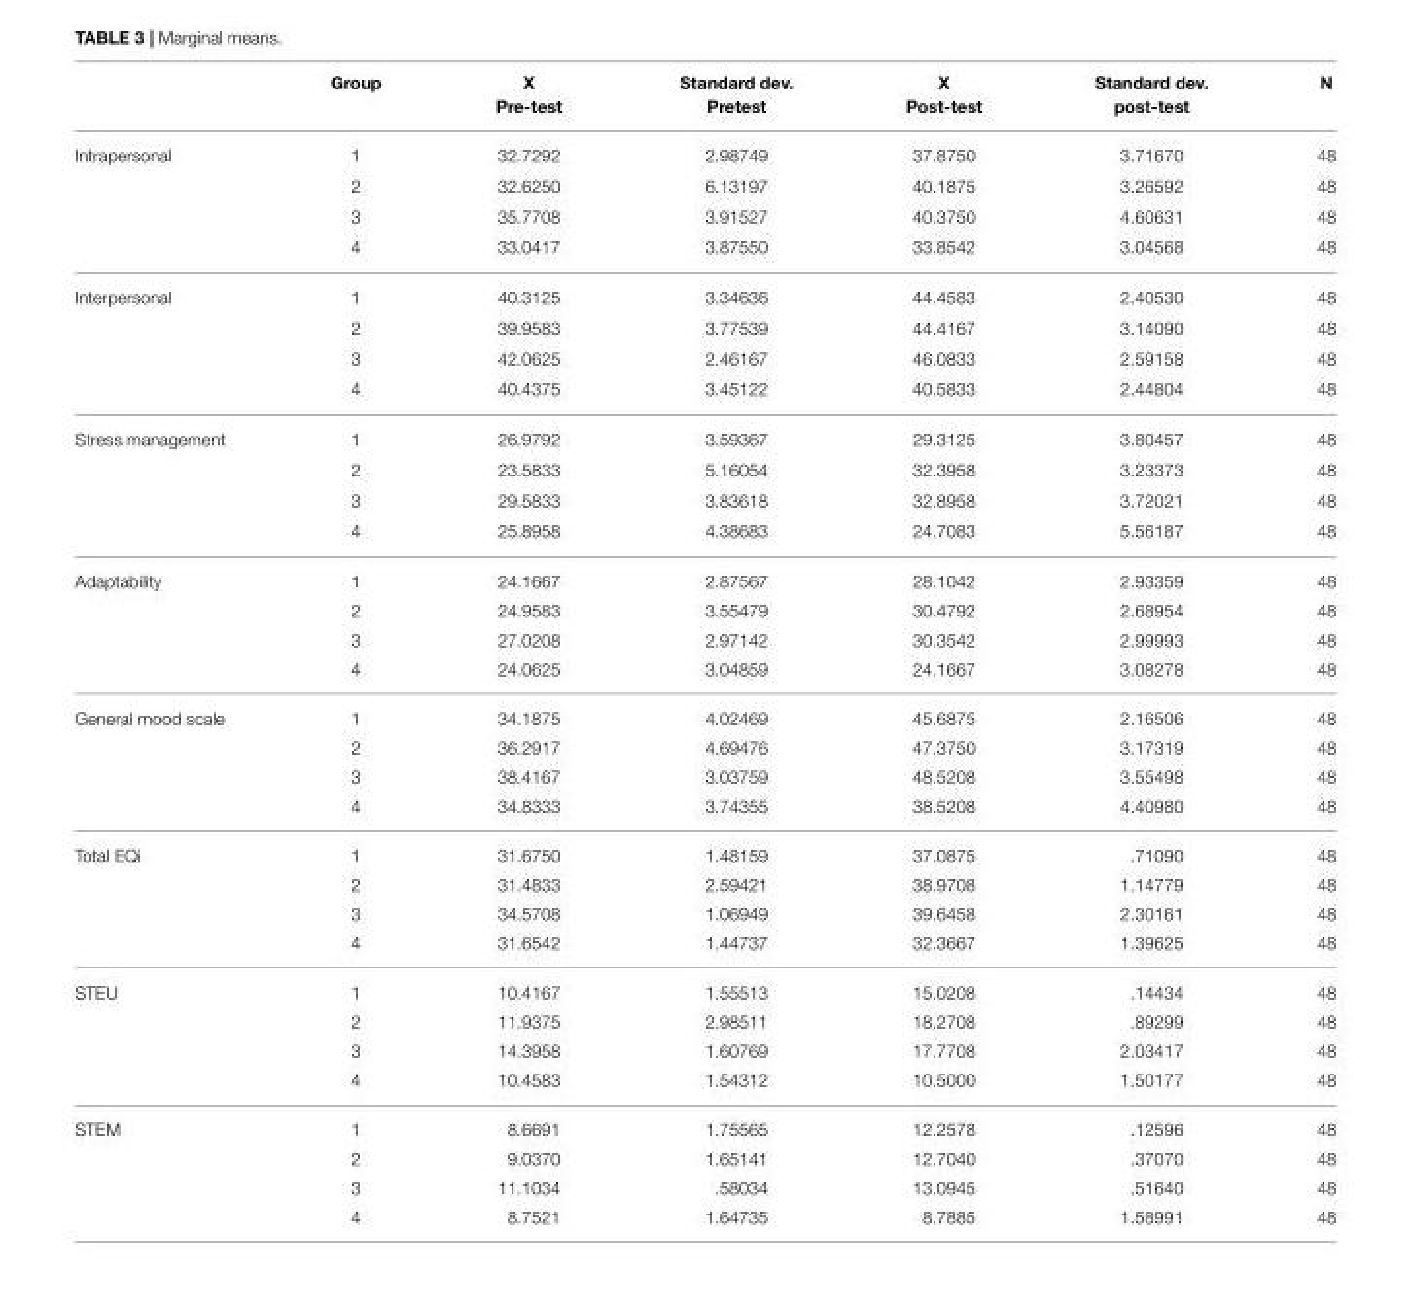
<table><thead><tr><td></td><td>Group</td><td>X Pre-test</td><td>Standard dev. Pretest</td><td>X Post-test</td><td>Standard dev. post-test</td><td>N</td></tr></thead><tbody><tr><td rowspan="4">Intrapersonal</td><td>1</td><td>32.7292</td><td>2.98749</td><td>37.8750</td><td>3.71670</td><td>48</td></tr><tr><td>2</td><td>32.6250</td><td>6.13197</td><td>40.1875</td><td>3.26592</td><td>48</td></tr><tr><td>3</td><td>35.7708</td><td>3.91527</td><td>40.3750</td><td>4.60631</td><td>48</td></tr><tr><td>4</td><td>33.0417</td><td>3.87550</td><td>33.8542</td><td>3.04568</td><td>48</td></tr><tr><td rowspan="4">Interpersonal</td><td>1</td><td>40.3125</td><td>3.34636</td><td>44.4583</td><td>2.40530</td><td>48</td></tr><tr><td>2</td><td>39.9583</td><td>3.77539</td><td>44.4167</td><td>3.14090</td><td>48</td></tr><tr><td>3</td><td>42.0625</td><td>2.46167</td><td>46.0833</td><td>2.59158</td><td>48</td></tr><tr><td>4</td><td>40.4375</td><td>3.45122</td><td>40.5833</td><td>2.44804</td><td>48</td></tr><tr><td rowspan="4">Stress management</td><td>1</td><td>26.9792</td><td>3.59367</td><td>29.3125</td><td>3.80457</td><td>48</td></tr><tr><td>2</td><td>23.5833</td><td>5.16054</td><td>32.3958</td><td>3.23373</td><td>48</td></tr><tr><td>3</td><td>29.5833</td><td>3.83618</td><td>32.8958</td><td>3.72021</td><td>48</td></tr><tr><td>4</td><td>25.8958</td><td>4.38683</td><td>24.7083</td><td>5.56187</td><td>48</td></tr><tr><td rowspan="4">Adaptability</td><td>1</td><td>24.1667</td><td>2.87567</td><td>28.1042</td><td>2.93359</td><td>48</td></tr><tr><td>2</td><td>24.9583</td><td>3.55479</td><td>30.4792</td><td>2.68954</td><td>48</td></tr><tr><td>3</td><td>27.0208</td><td>2.97142</td><td>30.3542</td><td>2.99993</td><td>48</td></tr><tr><td>4</td><td>24.0625</td><td>3.04859</td><td>24.1667</td><td>3.08278</td><td>48</td></tr><tr><td rowspan="4">General mood scale</td><td>1</td><td>34.1875</td><td>4.02469</td><td>45.6875</td><td>2.16506</td><td>48</td></tr><tr><td>2</td><td>36.2917</td><td>4.69476</td><td>47.3750</td><td>3.17319</td><td>48</td></tr><tr><td>3</td><td>38.4167</td><td>3.03759</td><td>48.5208</td><td>3.55498</td><td>48</td></tr><tr><td>4</td><td>34.8333</td><td>3.74355</td><td>38.5208</td><td>4.40980</td><td>48</td></tr><tr><td rowspan="4">Total EQi</td><td>1</td><td>31.6750</td><td>1.48159</td><td>37.0875</td><td>.71090</td><td>48</td></tr><tr><td>2</td><td>31.4833</td><td>2.59421</td><td>38.9708</td><td>1.14779</td><td>48</td></tr><tr><td>3</td><td>34.5708</td><td>1.06949</td><td>39.6458</td><td>2.30161</td><td>48</td></tr><tr><td>4</td><td>31.6542</td><td>1.44737</td><td>32.3667</td><td>1.39625</td><td>48</td></tr><tr><td rowspan="4">STEU</td><td>1</td><td>10.4167</td><td>1.55513</td><td>15.0208</td><td>.14434</td><td>48</td></tr><tr><td>2</td><td>11.9375</td><td>2.98511</td><td>18.2708</td><td>.89299</td><td>48</td></tr><tr><td>3</td><td>14.3958</td><td>1.60769</td><td>17.7708</td><td>2.03417</td><td>48</td></tr><tr><td>4</td><td>10.4583</td><td>1.54312</td><td>10.5000</td><td>1.50177</td><td>48</td></tr><tr><td rowspan="4">STEM</td><td>1</td><td>8.6691</td><td>1.75565</td><td>12.2578</td><td>.12596</td><td>48</td></tr><tr><td>2</td><td>9.0370</td><td>1.65141</td><td>12.7040</td><td>.37070</td><td>48</td></tr><tr><td>3</td><td>11.1034</td><td>.58034</td><td>13.0945</td><td>.51640</td><td>48</td></tr><tr><td>4</td><td>8.7521</td><td>1.64735</td><td>8.7885</td><td>1.58991</td><td>48</td></tr></tbody></table>